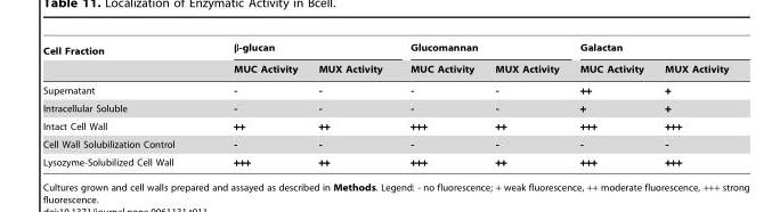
<table><thead><tr><td rowspan="2">Cell Fraction</td><td colspan="2">β-glucan</td><td colspan="2">Glucomannan</td><td colspan="2">Galactan</td></tr><tr><td>MUC Activity</td><td>MUX Activity</td><td>MUC Activity</td><td>MUX Activity</td><td>MUC Activity</td><td>MUX Activity</td></tr></thead><tbody><tr><td>Supernatant</td><td>-</td><td>-</td><td>-</td><td>-</td><td>++</td><td>+</td></tr><tr><td>Intracellular Soluble</td><td>-</td><td>-</td><td>-</td><td>-</td><td>+</td><td>+</td></tr><tr><td>Intact Cell Wall</td><td>++</td><td>++</td><td>+++</td><td>++</td><td>+++</td><td>+++</td></tr><tr><td>Cell Wall Solubilization Control</td><td>-</td><td>-</td><td>-</td><td>-</td><td>-</td><td>-</td></tr><tr><td>Lysozyme-Solubilized Cell Wall</td><td>+++</td><td>++</td><td>+++</td><td>++</td><td>+++</td><td>+++</td></tr></tbody></table>